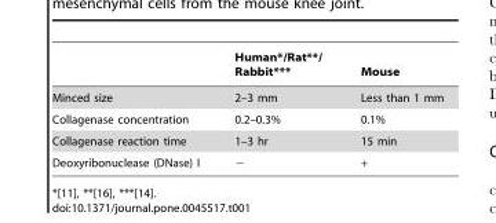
<table><thead><tr><td></td><td>Human*/Rat**/ Rabbit***</td><td>Mouse</td></tr></thead><tbody><tr><td>Minced size</td><td>2–3 mm</td><td>Less than 1 mm</td></tr><tr><td>Collagenase concentration</td><td>0.2–0.3%</td><td>0.1%</td></tr><tr><td>Collagenase reaction time</td><td>1–3 hr</td><td>15 min</td></tr><tr><td>Deoxyribonuclease (DNase) I</td><td>−</td><td>+</td></tr></tbody></table>